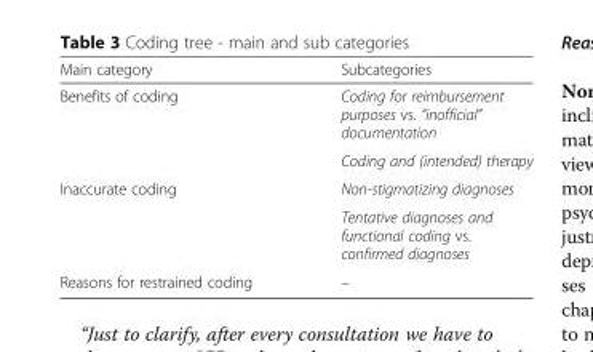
<table><thead><tr><td>Main category</td><td>Subcategories</td></tr></thead><tbody><tr><td rowspan="2">Benefits of coding</td><td>Coding for reimbursement purposes vs. “inofficial” documentation</td></tr><tr><td>Coding and (intended) therapy</td></tr><tr><td rowspan="2">Inaccurate coding</td><td>Non-stigmatizing diagnoses</td></tr><tr><td>Tentative diagnoses and functional coding vs. confirmed diagnoses</td></tr><tr><td>Reasons for restrained coding</td><td>–</td></tr></tbody></table>